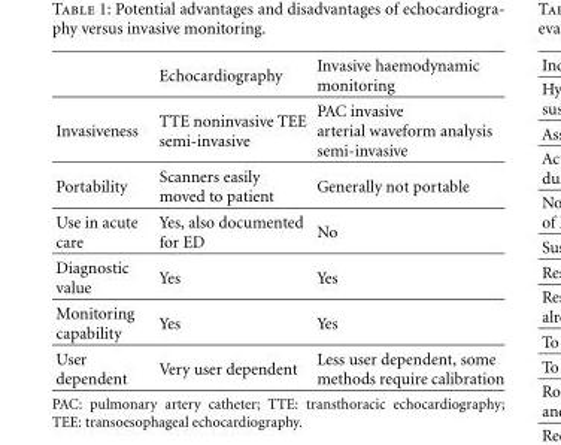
<table><thead><tr><td></td><td>Echocardiography</td><td>Invasive haemodynamic monitoring</td></tr></thead><tbody><tr><td>Invasiveness</td><td>TTE noninvasive TEE semi-invasive</td><td>PAC invasive arterial waveform analysis semi-invasive</td></tr><tr><td>Portability</td><td>Scanners easily moved to patient</td><td>Generally not portable</td></tr><tr><td>Use in acute care</td><td>Yes, also documented for ED</td><td>No</td></tr><tr><td>Diagnostic value</td><td>Yes</td><td>Yes</td></tr><tr><td>Monitoring capability</td><td>Yes</td><td>Yes</td></tr><tr><td>User dependent</td><td>Very user dependent</td><td>Less user dependent, some methods require calibration</td></tr></tbody></table>